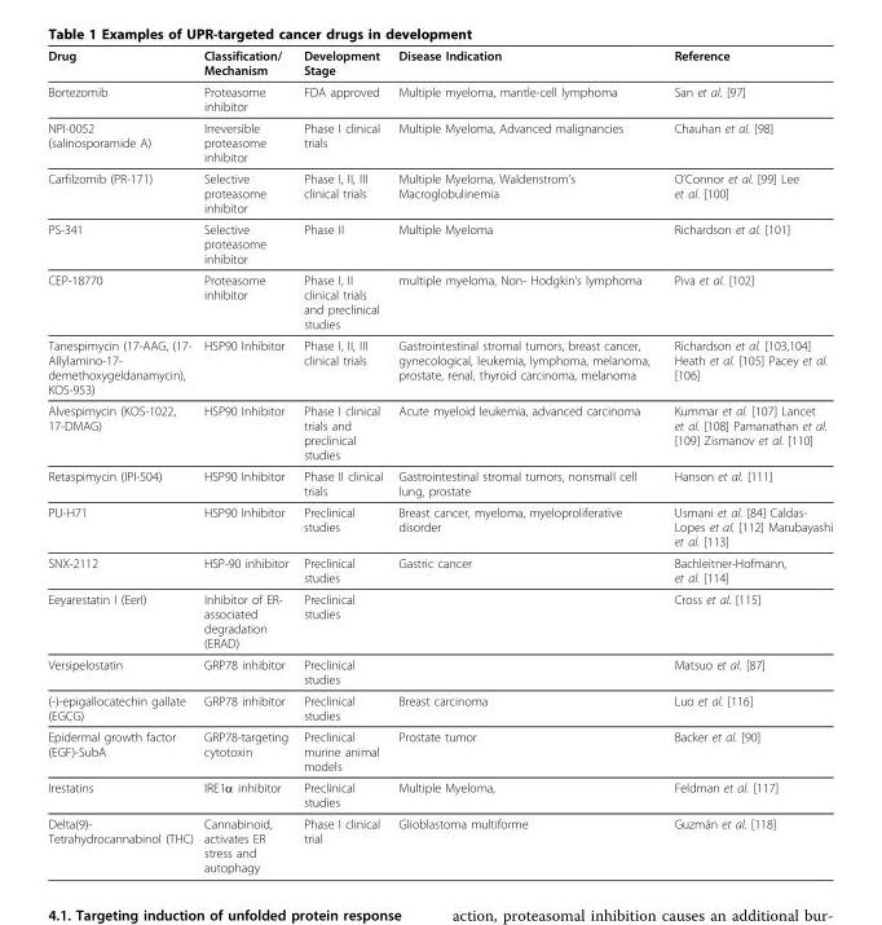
<table><thead><tr><td>Drug</td><td>Classification/ Mechanism</td><td>Development Stage</td><td>Disease Indication</td><td>Reference</td></tr></thead><tbody><tr><td>Bortezomib</td><td>Proteasome inhibitor</td><td>FDA approved</td><td>Multiple myeloma, mantle-cell lymphoma</td><td>San et al. [97]</td></tr><tr><td>NPI-0052 (salinosporamide A)</td><td>Irreversible proteasome inhibitor</td><td>Phase I clinical trials</td><td>Multiple Myeloma, Advanced malignancies</td><td>Chauhan et al. [98]</td></tr><tr><td>Carfilzomib (PR-171)</td><td>Selective proteasome inhibitor</td><td>Phase I, II, III clinical trials</td><td>Multiple Myeloma, Waldenstrom’s Macroglobulinemia</td><td>O’Connor et al. [99] Lee et al. [100]</td></tr><tr><td>PS-341</td><td>Selective proteasome inhibitor</td><td>Phase II</td><td>Multiple Myeloma</td><td>Richardson et al. [101]</td></tr><tr><td>CEP-18770</td><td>Proteasome inhibitor</td><td>Phase I, II clinical trials and preclinical studies</td><td>multiple myeloma, Non- Hodgkin’s lymphoma</td><td>Piva et al. [102]</td></tr><tr><td>Tanespimycin (17-AAG, (17- Allylamino-17- demethoxygeldanamycin), KOS-953)</td><td>HSP90 Inhibitor</td><td>Phase I, II, III clinical trials</td><td>Gastrointestinal stromal tumors, breast cancer, gynecological, leukemia, lymphoma, melanoma, prostate, renal, thyroid carcinoma, melanoma</td><td>Richardson et al. [103,104] Heath et al. [105] Pacey et al. [106]</td></tr><tr><td>Alvespimycin (KOS-1022, 17-DMAG)</td><td>HSP90 Inhibitor</td><td>Phase I clinical trials and preclinical studies</td><td>Acute myeloid leukemia, advanced carcinoma</td><td>Kummar et al. [107] Lancet et al. [108] Pamanathan et al. [109] Zismanov et al. [110]</td></tr><tr><td>Retaspimycin (IPI-504)</td><td>HSP90 Inhibitor</td><td>Phase II clinical trials</td><td>Gastrointestinal stromal tumors, nonsmall cell lung, prostate</td><td>Hanson et al. [111]</td></tr><tr><td>PU-H71</td><td>HSP90 Inhibitor</td><td>Preclinical studies</td><td>Breast cancer, myeloma, myeloproliferative disorder</td><td>Usmani et al. [84] Caldas- Lopes et al. [112] Marubayashi et al. [113]</td></tr><tr><td>SNX-2112</td><td>HSP-90 inhibitor</td><td>Preclinical studies</td><td>Gastric cancer</td><td>Bachleitner-Hofmann, et al. [114]</td></tr><tr><td>Eeyarestatin I (EerI)</td><td>Inhibitor of ER- associated degradation (ERAD)</td><td>Preclinical studies</td><td></td><td>Cross et al. [115]</td></tr><tr><td>Versipelostatin</td><td>GRP78 inhibitor</td><td>Preclinical studies</td><td></td><td>Matsuo et al. [87]</td></tr><tr><td>(-)-epigallocatechin gallate (EGCG)</td><td>GRP78 inhibitor</td><td>Preclinical studies</td><td>Breast carcinoma</td><td>Luo et al. [116]</td></tr><tr><td>Epidermal growth factor (EGF)-SubA</td><td>GRP78-targeting cytotoxin</td><td>Preclinical murine animal models</td><td>Prostate tumor</td><td>Backer et al. [90]</td></tr><tr><td>Irestatins</td><td>IRE1α inhibitor</td><td>Preclinical studies</td><td>Multiple Myeloma,</td><td>Feldman et al. [117]</td></tr><tr><td>Delta(9)- Tetrahydrocannabinol (THC)</td><td>Cannabinoid, activates ER stress and autophagy</td><td>Phase I clinical trial</td><td>Glioblastoma multiforme</td><td>Guzmán et al. [118]</td></tr></tbody></table>